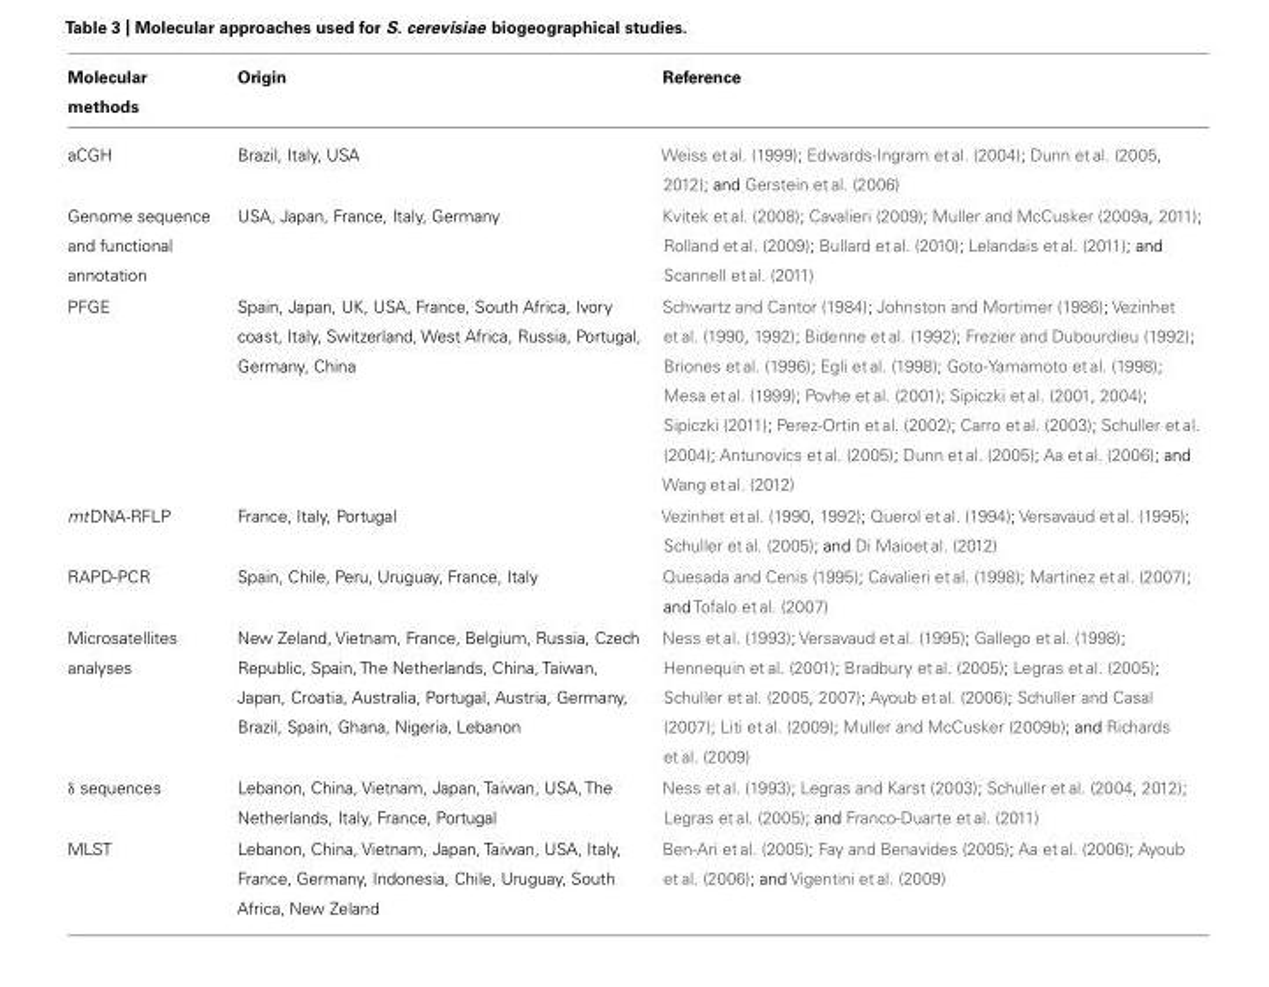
<table><thead><tr><td>Molecular methods</td><td>Origin</td><td>Reference</td></tr></thead><tbody><tr><td>aCGH</td><td>Brazil, Italy, USA</td><td>Weiss et al. (1999); Edwards-Ingram et al. (2004); Dunn et al. (2005, 2012); and Gerstein et al. (2006)</td></tr><tr><td>Genome sequence and functional annotation</td><td>USA, Japan, France, Italy, Germany</td><td>Kvitek et al. (2008); Cavalieri (2009); Muller and McCusker (2009a, 2011); Rolland et al. (2009); Bullard et al. (2010); Lelandais et al. (2011); and Scannell et al. (2011)</td></tr><tr><td>PFGE</td><td>Spain, Japan, UK, USA, France, South Africa, Ivory coast, Italy, Switzerland, West Africa, Russia, Portugal, Germany, China</td><td>Schwartz and Cantor (1984); Johnston and Mortimer (1986); Vezinhet et al. (1990, 1992); Bidenne et al. (1992); Frezier and Dubourdieu (1992); Briones et al. (1996); Egli et al. (1998); Goto-Yamamoto et al. (1998); Mesa et al. (1999); Povhe et al. (2001); Sipiczki et al. (2001, 2004); Sipiczki (2011); Perez-Ortin et al. (2002); Carro et al. (2003); Schuller et al. (2004); Antunovics et al. (2005); Dunn et al. (2005); Aa et al. (2006); and Wang et al. (2012)</td></tr><tr><td>mtDNA-RFLP</td><td>France, Italy, Portugal</td><td>Vezinhet et al. (1990, 1992); Querol et al. (1994); Versavaud et al. (1995); Schuller et al. (2005); and Di Maioet al. (2012)</td></tr><tr><td>RAPD-PCR</td><td>Spain, Chile, Peru, Uruguay, France, Italy</td><td>Quesada and Cenis (1995); Cavalieri et al. (1998); Martinez et al. (2007); and Tofalo et al. (2007)</td></tr><tr><td>Microsatellites analyses</td><td>New Zeland, Vietnam, France, Belgium, Russia, Czech Republic, Spain, The Netherlands, China, Taiwan, Japan, Croatia, Australia, Portugal, Austria, Germany, Brazil, Spain, Ghana, Nigeria, Lebanon</td><td>Ness et al. (1993); Versavaud et al. (1995); Gallego et al. (1998); Hennequin et al. (2001); Bradbury et al. (2005); Legras et al. (2005); Schuller et al. (2005, 2007); Ayoub et al. (2006); Schuller and Casal (2007); Liti et al. (2009); Muller and McCusker (2009b); and Richards et al. (2009)</td></tr><tr><td>δ sequences</td><td>Lebanon, China, Vietnam, Japan, Taiwan, USA, The Netherlands, Italy, France, Portugal</td><td>Ness et al. (1993); Legras and Karst (2003); Schuller et al. (2004, 2012); Legras et al. (2005); and Franco-Duarte et al. (2011)</td></tr><tr><td>MLST</td><td>Lebanon, China, Vietnam, Japan, Taiwan, USA, Italy, France, Germany, Indonesia, Chile, Uruguay, South Africa, New Zeland</td><td>Ben-Ari et al. (2005); Fay and Benavides (2005); Aa et al. (2006); Ayoub et al. (2006); and Vigentini et al. (2009)</td></tr></tbody></table>